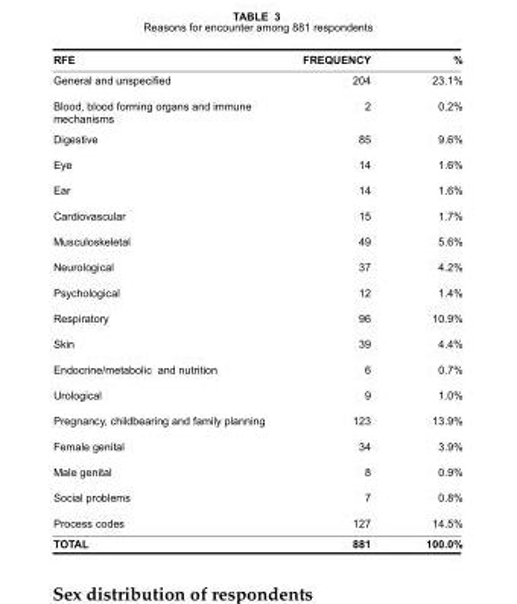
<table><thead><tr><td>rFE</td><td>FrEquEncy</td><td>%</td></tr></thead><tbody><tr><td>General and unspecified</td><td>204</td><td>23.1%</td></tr><tr><td>Blood, blood forming organs and immune mechanisms</td><td>2</td><td>0.2%</td></tr><tr><td>Digestive</td><td>85</td><td>9.6%</td></tr><tr><td>Eye</td><td>14</td><td>1.6%</td></tr><tr><td>Ear</td><td>14</td><td>1.6%</td></tr><tr><td>Cardiovascular</td><td>15</td><td>1.7%</td></tr><tr><td>Musculoskeletal</td><td>49</td><td>5.6%</td></tr><tr><td>Neurological</td><td>37</td><td>4.2%</td></tr><tr><td>Psychological</td><td>12</td><td>1.4%</td></tr><tr><td>Respiratory</td><td>96</td><td>10.9%</td></tr><tr><td>Skin</td><td>39</td><td>4.4%</td></tr><tr><td>Endocrine/metabolic and nutrition</td><td>6</td><td>0.7%</td></tr><tr><td>Urological</td><td>9</td><td>1.0%</td></tr><tr><td>Pregnancy, childbearing and family planning</td><td>123</td><td>13.9%</td></tr><tr><td>Female genital</td><td>34</td><td>3.9%</td></tr><tr><td>Male genital</td><td>8</td><td>0.9%</td></tr><tr><td>Social problems</td><td>7</td><td>0.8%</td></tr><tr><td>Process codes</td><td>127</td><td>14.5%</td></tr><tr><td>TOTAL</td><td>881</td><td>100.0%</td></tr></tbody></table>